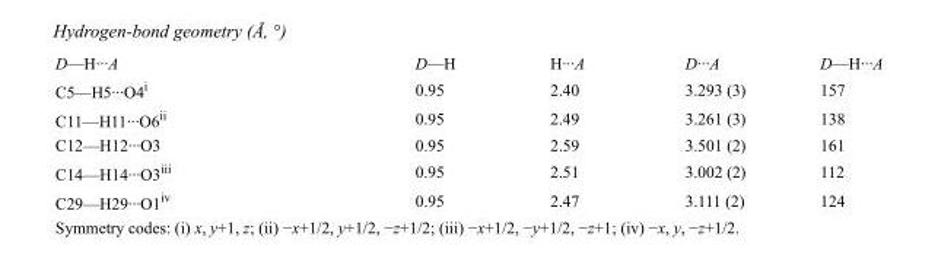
<table><tbody><tr><td>D—H···A</td><td>D—H</td><td>H···A</td><td>D···A</td><td>D—H···A</td></tr><tr><td>C5—H5···O4<sup>i</sup></td><td>0.95</td><td>2.40</td><td>3.293 (3)</td><td>157</td></tr><tr><td>C11—H11···O6<sup>ii</sup></td><td>0.95</td><td>2.49</td><td>3.261 (3)</td><td>138</td></tr><tr><td>C12—H12···O3</td><td>0.95</td><td>2.59</td><td>3.501 (2)</td><td>161</td></tr><tr><td>C14—H14···O3<sup>iii</sup></td><td>0.95</td><td>2.51</td><td>3.002 (2)</td><td>112</td></tr><tr><td>C29—H29···O1<sup>iv</sup></td><td>0.95</td><td>2.47</td><td>3.111 (2)</td><td>124</td></tr></tbody></table>